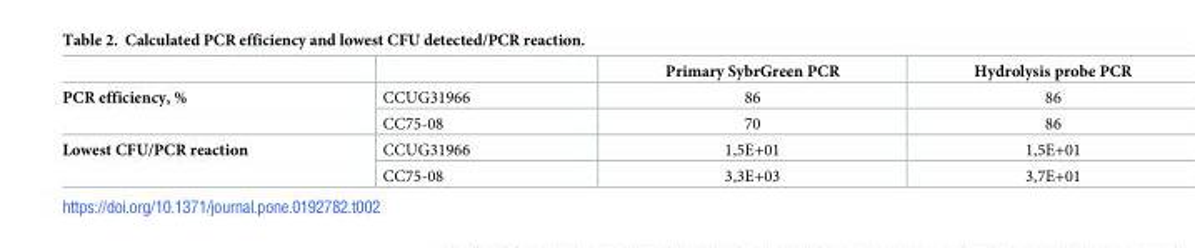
<table><thead><tr><td></td><td></td><td>Primary SybrGreen PCR</td><td>Hydrolysis probe PCR</td></tr></thead><tbody><tr><td rowspan="2">PCR efficiency, %</td><td>CCUG31966</td><td>86</td><td>86</td></tr><tr><td>CC75-08</td><td>70</td><td>86</td></tr><tr><td rowspan="2">Lowest CFU/PCR reaction</td><td>CCUG31966</td><td>1,5E+01</td><td>1,5E+01</td></tr><tr><td>CC75-08</td><td>3,3E+03</td><td>3,7E+01</td></tr></tbody></table>